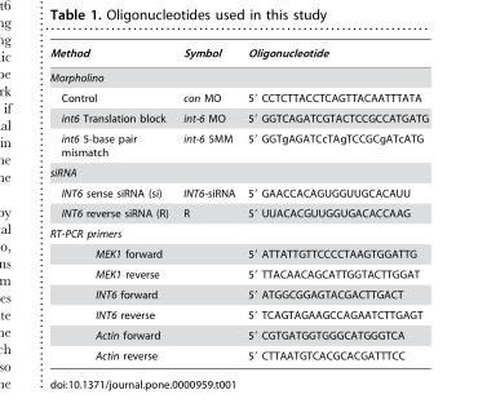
<table><thead><tr><td>Method</td><td>Symbol</td><td>Oligonucleotide</td></tr></thead><tbody><tr><td colspan="3">Morpholino</td></tr><tr><td>Control</td><td>con MO</td><td>5′ CCTCTTACCTCAGTTACAATTTATA</td></tr><tr><td>int6 Translation block</td><td>int-6 MO</td><td>5′ GGTCAGATCGTACTCCGCCATGATG</td></tr><tr><td>int6 5-base pair mismatch</td><td>int-6 5MM</td><td>5′ GGTgAGATCcTAgTCCGCgATcATG</td></tr><tr><td colspan="3">siRNA</td></tr><tr><td>INT6 sense siRNA (si)</td><td>INT6-siRNA</td><td>5′ GAACCACAGUGGUUGCACAUU</td></tr><tr><td>INT6 reverse siRNA (R)</td><td>R</td><td>5′ UUACACGUUGGUGACACCAAG</td></tr><tr><td colspan="3">RT-PCR primers</td></tr><tr><td colspan="2">MEK1 forward</td><td>5′ ATTATTGTTCCCCTAAGTGGATTG</td></tr><tr><td colspan="2">MEK1 reverse</td><td>5′ TTACAACAGCATTGGTACTTGGAT</td></tr><tr><td colspan="2">INT6 forward</td><td>5′ ATGGCGGAGTACGACTTGACT</td></tr><tr><td colspan="2">INT6 reverse</td><td>5′ TCAGTAGAAGCCAGAATCTTGAGT</td></tr><tr><td colspan="2">Actin forward</td><td>5′ CGTGATGGTGGGCATGGGTCA</td></tr><tr><td colspan="2">Actin reverse</td><td>5′ CTTAATGTCACGCACGATTTCC</td></tr></tbody></table>